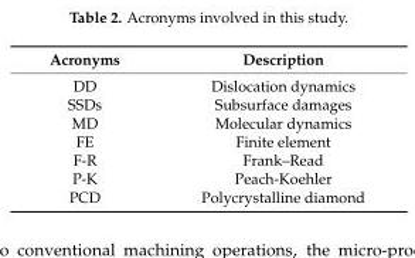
<table><thead><tr><td>Acronyms</td><td>Description</td></tr></thead><tbody><tr><td>DD</td><td>Dislocation dynamics</td></tr><tr><td>SSDs</td><td>Subsurface damages</td></tr><tr><td>MD</td><td>Molecular dynamics</td></tr><tr><td>FE</td><td>Finite element</td></tr><tr><td>F-R</td><td>Frank–Read</td></tr><tr><td>P-K</td><td>Peach-Koehler</td></tr><tr><td>PCD</td><td>Polycrystalline diamond</td></tr></tbody></table>